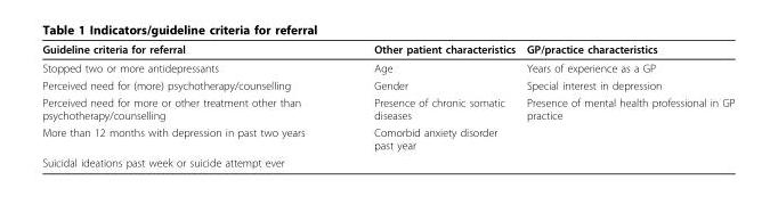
<table><thead><tr><td>Guideline criteria for referral</td><td>Other patient characteristics</td><td>GP/practice characteristics</td></tr></thead><tbody><tr><td>Stopped two or more antidepressants</td><td>Age</td><td>Years of experience as a GP</td></tr><tr><td>Perceived need for (more) psychotherapy/counselling</td><td>Gender</td><td>Special interest in depression</td></tr><tr><td>Perceived need for more or other treatment other than psychotherapy/counselling</td><td>Presence of chronic somatic diseases</td><td>Presence of mental health professional in GP practice</td></tr><tr><td>More than 12 months with depression in past two years</td><td>Comorbid anxiety disorder past year</td><td></td></tr><tr><td>Suicidal ideations past week or suicide attempt ever</td><td></td><td></td></tr></tbody></table>